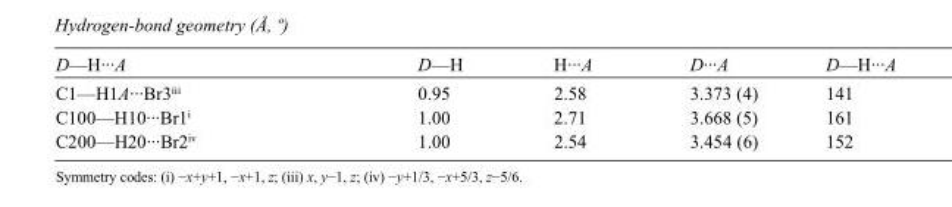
<table><tbody><tr><td>D—H···A</td><td>D—H</td><td>H···A</td><td>D···A</td><td>D—H···A</td></tr><tr><td>C1—H1A···Br3<sup>iii</sup></td><td>0.95</td><td>2.58</td><td>3.373 (4)</td><td>141</td></tr><tr><td>C100—H10···Br1<sup>i</sup></td><td>1.00</td><td>2.71</td><td>3.668 (5)</td><td>161</td></tr><tr><td>C200—H20···Br2<sup>iv</sup></td><td>1.00</td><td>2.54</td><td>3.454 (6)</td><td>152</td></tr></tbody></table>